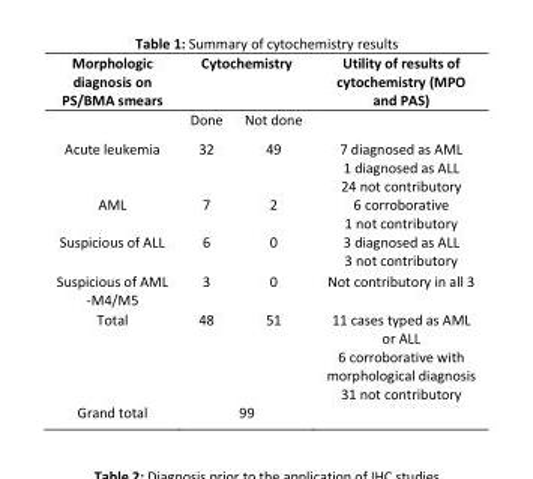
<table><thead><tr><td rowspan="2">Morphologic diagnosis on PS/BMA smears</td><td colspan="2">Cytochemistry</td><td rowspan="2">Utility of results of cytochemistry (MPO and PAS)</td></tr><tr><td>Done</td><td>Not done</td></tr></thead><tbody><tr><td>Acute leukemia</td><td>32</td><td>49</td><td>7 diagnosed as AML 1 diagnosed as ALL 24 not contributory</td></tr><tr><td>AML</td><td>7</td><td>2</td><td>6 corroborative 1 not contributory</td></tr><tr><td>Suspicious of ALL</td><td>6</td><td>0</td><td>3 diagnosed as ALL 3 not contributory</td></tr><tr><td>Suspicious of AML -M4/M5</td><td>3</td><td>0</td><td>Not contributory in all 3</td></tr><tr><td>Total</td><td>48</td><td>51</td><td>11 cases typed as AML or ALL 6 corroborative with morphological diagnosis 31 not contributory</td></tr><tr><td>Grand total</td><td colspan="2">99</td><td></td></tr></tbody></table>